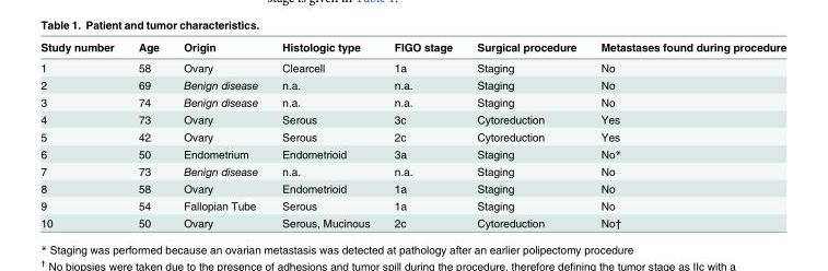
<table><thead><tr><td>Study number</td><td>Age</td><td>Origin</td><td>Histologic type</td><td>FIGO stage</td><td>Surgical procedure</td><td>Metastases found during procedure</td></tr></thead><tbody><tr><td>1</td><td>58</td><td>Ovary</td><td>Clearcell</td><td>1a</td><td>Staging</td><td>No</td></tr><tr><td>2</td><td>69</td><td>Benign disease</td><td>n.a.</td><td>n.a.</td><td>Staging</td><td>No</td></tr><tr><td>3</td><td>74</td><td>Benign disease</td><td>n.a.</td><td>n.a.</td><td>Staging</td><td>No</td></tr><tr><td>4</td><td>73</td><td>Ovary</td><td>Serous</td><td>3c</td><td>Cytoreduction</td><td>Yes</td></tr><tr><td>5</td><td>42</td><td>Ovary</td><td>Serous</td><td>2c</td><td>Cytoreduction</td><td>Yes</td></tr><tr><td>6</td><td>50</td><td>Endometrium</td><td>Endometrioid</td><td>3a</td><td>Staging</td><td>No*</td></tr><tr><td>7</td><td>73</td><td>Benign disease</td><td>n.a.</td><td>n.a.</td><td>Staging</td><td>No</td></tr><tr><td>8</td><td>58</td><td>Ovary</td><td>Endometrioid</td><td>1a</td><td>Staging</td><td>No</td></tr><tr><td>9</td><td>54</td><td>Fallopian Tube</td><td>Serous</td><td>1a</td><td>Staging</td><td>No</td></tr><tr><td>10</td><td>50</td><td>Ovary</td><td>Serous, Mucinous</td><td>2c</td><td>Cytoreduction</td><td>No†</td></tr></tbody></table>